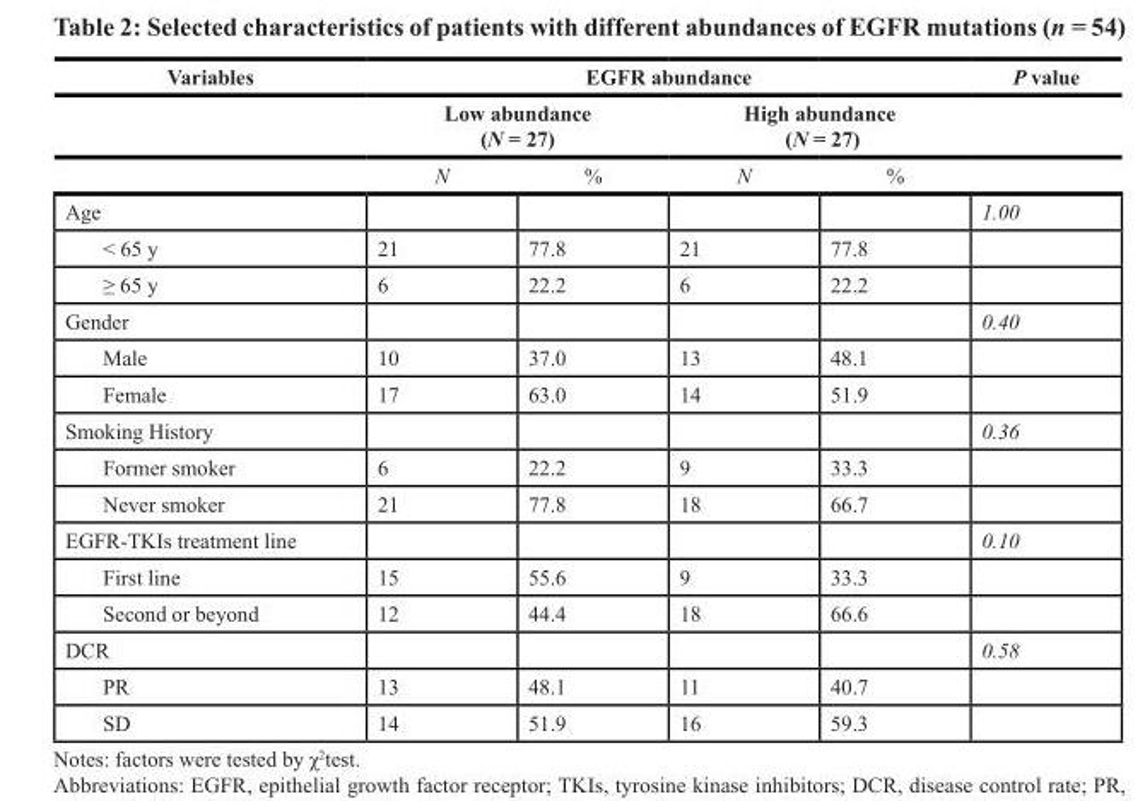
<table><thead><tr><td rowspan="3">Variables</td><td colspan="4">EGFR abundance</td><td rowspan="3">P value</td></tr><tr><td colspan="2">Low abundance (N = 27)</td><td colspan="2">High abundance (N = 27)</td></tr><tr><td>N</td><td>%</td><td>N</td><td>%</td></tr></thead><tbody><tr><td>Age</td><td></td><td></td><td></td><td></td><td>1.00</td></tr><tr><td>&lt; 65 y</td><td>21</td><td>77.8</td><td>21</td><td>77.8</td><td></td></tr><tr><td>≥ 65 y</td><td>6</td><td>22.2</td><td>6</td><td>22.2</td><td></td></tr><tr><td>Gender</td><td></td><td></td><td></td><td></td><td>0.40</td></tr><tr><td>Male</td><td>10</td><td>37.0</td><td>13</td><td>48.1</td><td></td></tr><tr><td>Female</td><td>17</td><td>63.0</td><td>14</td><td>51.9</td><td></td></tr><tr><td>Smoking History</td><td></td><td></td><td></td><td></td><td>0.36</td></tr><tr><td>Former smoker</td><td>6</td><td>22.2</td><td>9</td><td>33.3</td><td></td></tr><tr><td>Never smoker</td><td>21</td><td>77.8</td><td>18</td><td>66.7</td><td></td></tr><tr><td>EGFR-TKIs treatment line</td><td></td><td></td><td></td><td></td><td>0.10</td></tr><tr><td>First line</td><td>15</td><td>55.6</td><td>9</td><td>33.3</td><td></td></tr><tr><td>Second or beyond</td><td>12</td><td>44.4</td><td>18</td><td>66.6</td><td></td></tr><tr><td>DCR</td><td></td><td></td><td></td><td></td><td>0.58</td></tr><tr><td>PR</td><td>13</td><td>48.1</td><td>11</td><td>40.7</td><td></td></tr><tr><td>SD</td><td>14</td><td>51.9</td><td>16</td><td>59.3</td><td></td></tr></tbody></table>